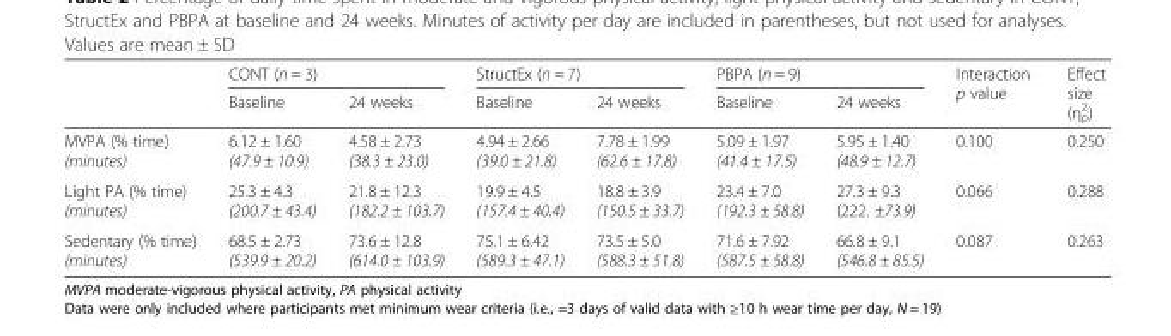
<table><thead><tr><td rowspan="2"></td><td colspan="2">CONT (n = 3)</td><td colspan="2">StructEx (n = 7)</td><td colspan="2">PBPA (n = 9)</td><td rowspan="2">Interaction p value</td><td rowspan="2">Effect size (η<sup>2</sup> <sub>p</sub>)</td></tr><tr><td>Baseline</td><td>24 weeks</td><td>Baseline</td><td>24 weeks</td><td>Baseline</td><td>24 weeks</td></tr></thead><tbody><tr><td>MVPA (% time) (minutes)</td><td>6.12 ± 1.60 (47.9 ± 10.9)</td><td>4.58 ± 2.73 (38.3 ± 23.0)</td><td>4.94 ± 2.66 (39.0 ± 21.8)</td><td>7.78 ± 1.99 (62.6 ± 17.8)</td><td>5.09 ± 1.97 (41.4 ± 17.5)</td><td>5.95 ± 1.40 (48.9 ± 12.7)</td><td>0.100</td><td>0.250</td></tr><tr><td>Light PA (% time) (minutes)</td><td>25.3 ± 4.3 (200.7 ± 43.4)</td><td>21.8 ± 12.3 (182.2 ± 103.7)</td><td>19.9 ± 4.5 (157.4 ± 40.4)</td><td>18.8 ± 3.9 (150.5 ± 33.7)</td><td>23.4 ± 7.0 (192.3 ± 58.8)</td><td>27.3 ± 9.3 (222. ±73.9)</td><td>0.066</td><td>0.288</td></tr><tr><td>Sedentary (% time) (minutes)</td><td>68.5 ± 2.73 (539.9 ± 20.2)</td><td>73.6 ± 12.8 (614.0 ± 103.9)</td><td>75.1 ± 6.42 (589.3 ± 47.1)</td><td>73.5 ± 5.0 (588.3 ± 51.8)</td><td>71.6 ± 7.92 (587.5 ± 58.8)</td><td>66.8 ± 9.1 (546.8 ± 85.5)</td><td>0.087</td><td>0.263</td></tr></tbody></table>